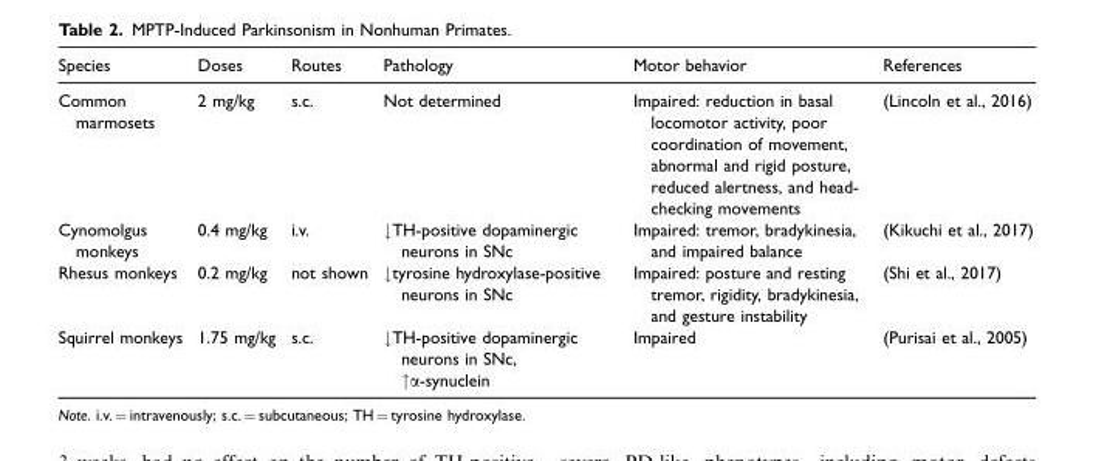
<table><thead><tr><td>Species</td><td>Doses</td><td>Routes</td><td>Pathology</td><td>Motor behavior</td><td>References</td></tr></thead><tbody><tr><td>Common marmosets</td><td>2 mg/kg</td><td>s.c.</td><td>Not determined</td><td>Impaired: reduction in basal locomotor activity, poor coordination of movement, abnormal and rigid posture, reduced alertness, and head- checking movements</td><td>(Lincoln et al., 2016)</td></tr><tr><td>Cynomolgus monkeys</td><td>0.4 mg/kg</td><td>i.v.</td><td>↓TH-positive dopaminergic neurons in SNc</td><td>Impaired: tremor, bradykinesia, and impaired balance</td><td>(Kikuchi et al., 2017)</td></tr><tr><td>Rhesus monkeys</td><td>0.2 mg/kg</td><td>not shown</td><td>↓tyrosine hydroxylase-positive neurons in SNc</td><td>Impaired: posture and resting tremor, rigidity, bradykinesia, and gesture instability</td><td>(Shi et al., 2017)</td></tr><tr><td>Squirrel monkeys</td><td>1.75 mg/kg</td><td>s.c.</td><td>↓TH-positive dopaminergic neurons in SNc, ↑α-synuclein</td><td>Impaired</td><td>(Purisai et al., 2005)</td></tr></tbody></table>